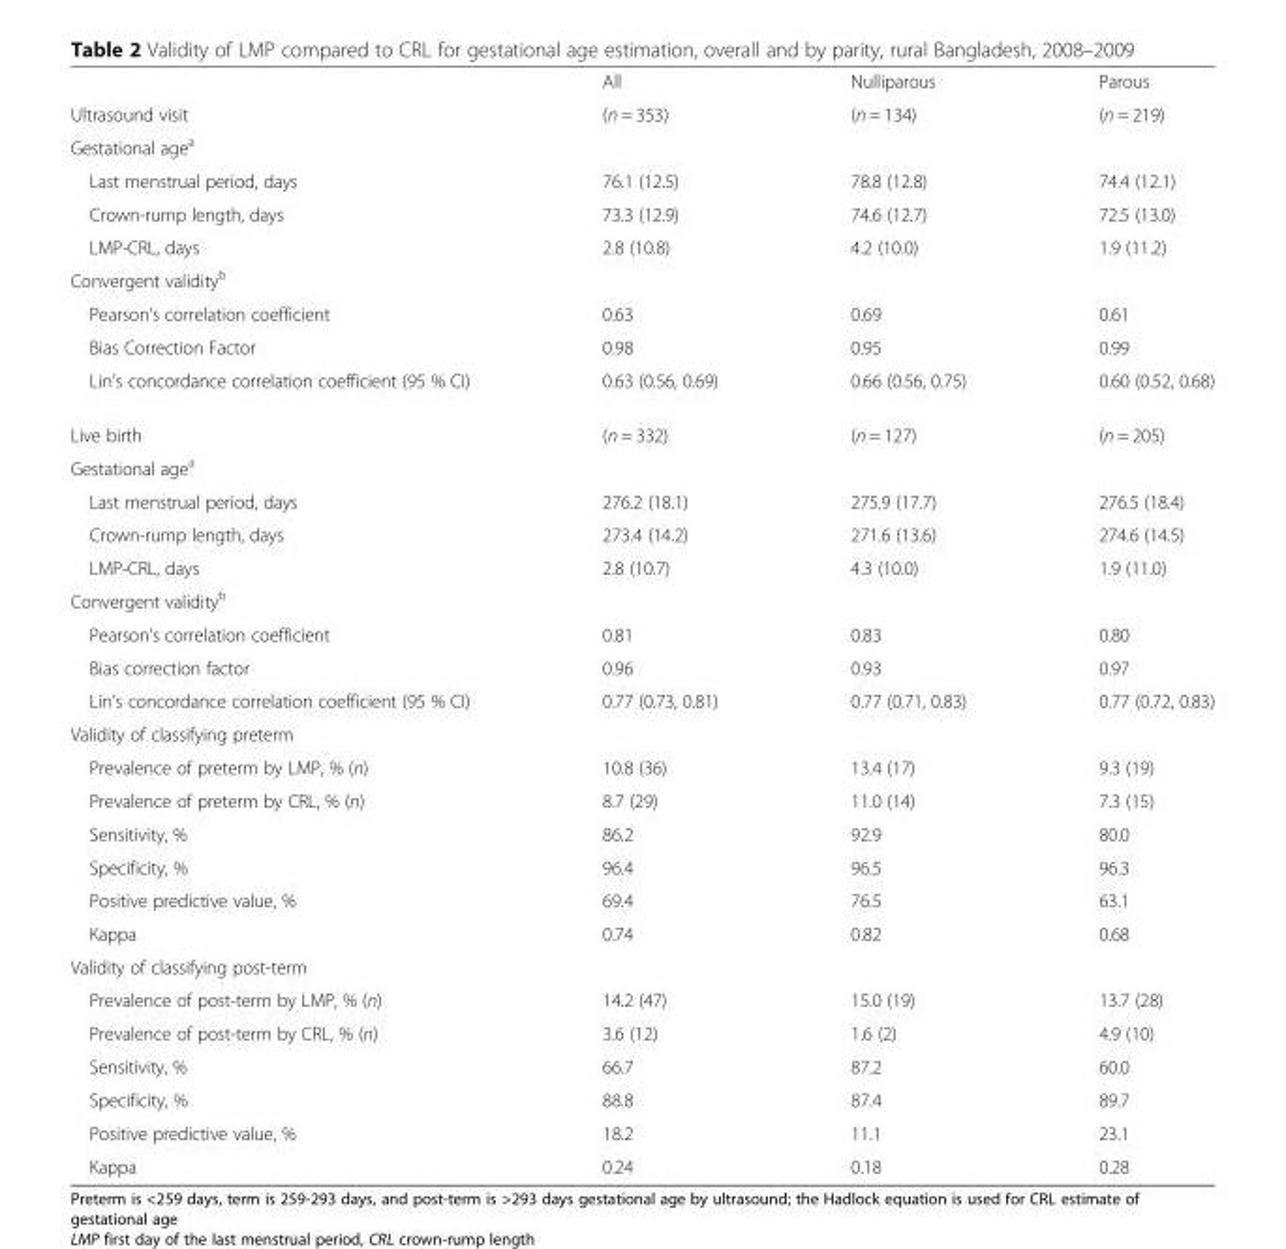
<table><thead><tr><td></td><td>All</td><td>Nulliparous</td><td>Parous</td></tr></thead><tbody><tr><td>Ultrasound visit</td><td>(n = 353)</td><td>(n = 134)</td><td>(n = 219)</td></tr><tr><td colspan="4">Gestational age<sup>a</sup></td></tr><tr><td>Last menstrual period, days</td><td>76.1 (12.5)</td><td>78.8 (12.8)</td><td>74.4 (12.1)</td></tr><tr><td>Crown-rump length, days</td><td>73.3 (12.9)</td><td>74.6 (12.7)</td><td>72.5 (13.0)</td></tr><tr><td>LMP-CRL, days</td><td>2.8 (10.8)</td><td>4.2 (10.0)</td><td>1.9 (11.2)</td></tr><tr><td colspan="4">Convergent validity<sup>b</sup></td></tr><tr><td>Pearson’s correlation coefficient</td><td>0.63</td><td>0.69</td><td>0.61</td></tr><tr><td>Bias Correction Factor</td><td>0.98</td><td>0.95</td><td>0.99</td></tr><tr><td>Lin’s concordance correlation coefficient (95 % CI)</td><td>0.63 (0.56, 0.69)</td><td>0.66 (0.56, 0.75)</td><td>0.60 (0.52, 0.68)</td></tr><tr><td>Live birth</td><td>(n = 332)</td><td>(n = 127)</td><td>(n = 205)</td></tr><tr><td colspan="4">Gestational age<sup>a</sup></td></tr><tr><td>Last menstrual period, days</td><td>276.2 (18.1)</td><td>275.9 (17.7)</td><td>276.5 (18.4)</td></tr><tr><td>Crown-rump length, days</td><td>273.4 (14.2)</td><td>271.6 (13.6)</td><td>274.6 (14.5)</td></tr><tr><td>LMP-CRL, days</td><td>2.8 (10.7)</td><td>4.3 (10.0)</td><td>1.9 (11.0)</td></tr><tr><td colspan="4">Convergent validity<sup>b</sup></td></tr><tr><td>Pearson’s correlation coefficient</td><td>0.81</td><td>0.83</td><td>0.80</td></tr><tr><td>Bias correction factor</td><td>0.96</td><td>0.93</td><td>0.97</td></tr><tr><td>Lin’s concordance correlation coefficient (95 % CI)</td><td>0.77 (0.73, 0.81)</td><td>0.77 (0.71, 0.83)</td><td>0.77 (0.72, 0.83)</td></tr><tr><td colspan="4">Validity of classifying preterm</td></tr><tr><td>Prevalence of preterm by LMP, % (n)</td><td>10.8 (36)</td><td>13.4 (17)</td><td>9.3 (19)</td></tr><tr><td>Prevalence of preterm by CRL, % (n)</td><td>8.7 (29)</td><td>11.0 (14)</td><td>7.3 (15)</td></tr><tr><td>Sensitivity, %</td><td>86.2</td><td>92.9</td><td>80.0</td></tr><tr><td>Specificity, %</td><td>96.4</td><td>96.5</td><td>96.3</td></tr><tr><td>Positive predictive value, %</td><td>69.4</td><td>76.5</td><td>63.1</td></tr><tr><td>Kappa</td><td>0.74</td><td>0.82</td><td>0.68</td></tr><tr><td colspan="4">Validity of classifying post-term</td></tr><tr><td>Prevalence of post-term by LMP, % (n)</td><td>14.2 (47)</td><td>15.0 (19)</td><td>13.7 (28)</td></tr><tr><td>Prevalence of post-term by CRL, % (n)</td><td>3.6 (12)</td><td>1.6 (2)</td><td>4.9 (10)</td></tr><tr><td>Sensitivity, %</td><td>66.7</td><td>87.2</td><td>60.0</td></tr><tr><td>Specificity, %</td><td>88.8</td><td>87.4</td><td>89.7</td></tr><tr><td>Positive predictive value, %</td><td>18.2</td><td>11.1</td><td>23.1</td></tr><tr><td>Kappa</td><td>0.24</td><td>0.18</td><td>0.28</td></tr></tbody></table>